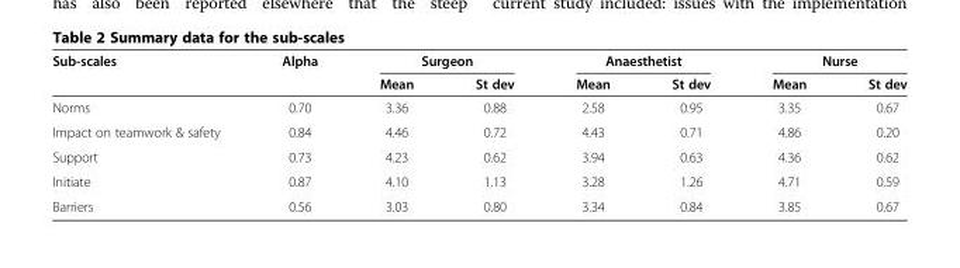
<table><thead><tr><td rowspan="2">Sub-scales</td><td rowspan="2">Alpha</td><td colspan="2">Surgeon</td><td colspan="2">Anaesthetist</td><td colspan="2">Nurse</td></tr><tr><td>Mean</td><td>St dev</td><td>Mean</td><td>St dev</td><td>Mean</td><td>St dev</td></tr></thead><tbody><tr><td>Norms</td><td>0.70</td><td>3.36</td><td>0.88</td><td>2.58</td><td>0.95</td><td>3.35</td><td>0.67</td></tr><tr><td>Impact on teamwork &amp; safety</td><td>0.84</td><td>4.46</td><td>0.72</td><td>4.43</td><td>0.71</td><td>4.86</td><td>0.20</td></tr><tr><td>Support</td><td>0.73</td><td>4.23</td><td>0.62</td><td>3.94</td><td>0.63</td><td>4.36</td><td>0.62</td></tr><tr><td>Initiate</td><td>0.87</td><td>4.10</td><td>1.13</td><td>3.28</td><td>1.26</td><td>4.71</td><td>0.59</td></tr><tr><td>Barriers</td><td>0.56</td><td>3.03</td><td>0.80</td><td>3.34</td><td>0.84</td><td>3.85</td><td>0.67</td></tr></tbody></table>